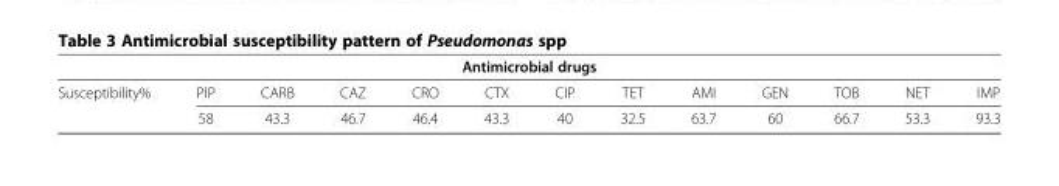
<table><thead><tr><td colspan="13">Antimicrobial drugs</td></tr><tr><td>Susceptibility%</td><td>PIP</td><td>CARB</td><td>CAZ</td><td>CRO</td><td>CTX</td><td>CIP</td><td>TET</td><td>AMI</td><td>GEN</td><td>TOB</td><td>NET</td><td>IMP</td></tr></thead><tbody><tr><td></td><td>58</td><td>43.3</td><td>46.7</td><td>46.4</td><td>43.3</td><td>40</td><td>32.5</td><td>63.7</td><td>60</td><td>66.7</td><td>53.3</td><td>93.3</td></tr></tbody></table>